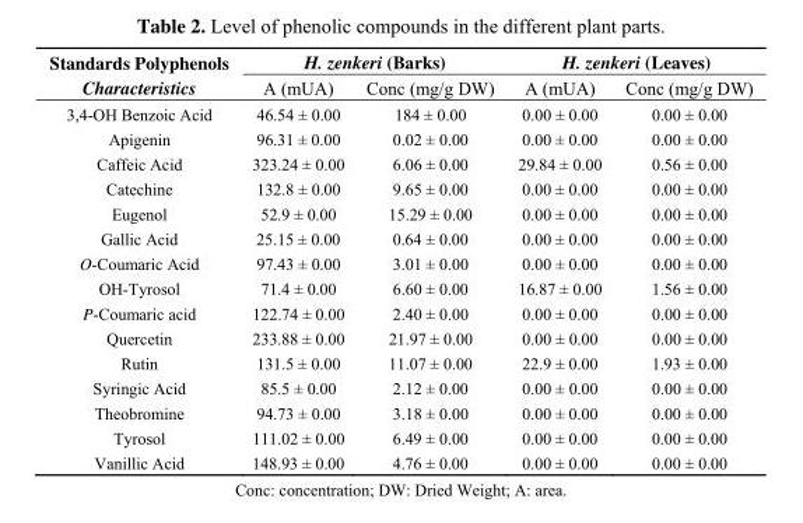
<table><thead><tr><td rowspan="2">Standards Polyphenols Characteristics</td><td colspan="2">H. zenkeri (Barks)</td><td colspan="2">H. zenkeri (Leaves)</td></tr><tr><td>A (mUA)</td><td>Conc (mg/g DW)</td><td>A (mUA)</td><td>Conc (mg/g DW)</td></tr></thead><tbody><tr><td>3,4-OH Benzoic Acid</td><td>46.54 ± 0.00</td><td>184 ± 0.00</td><td>0.00 ± 0.00</td><td>0.00 ± 0.00</td></tr><tr><td>Apigenin</td><td>96.31 ± 0.00</td><td>0.02 ± 0.00</td><td>0.00 ± 0.00</td><td>0.00 ± 0.00</td></tr><tr><td>Caffeic Acid</td><td>323.24 ± 0.00</td><td>6.06 ± 0.00</td><td>29.84 ± 0.00</td><td>0.56 ± 0.00</td></tr><tr><td>Catechine</td><td>132.8 ± 0.00</td><td>9.65 ± 0.00</td><td>0.00 ± 0.00</td><td>0.00 ± 0.00</td></tr><tr><td>Eugenol</td><td>52.9 ± 0.00</td><td>15.29 ± 0.00</td><td>0.00 ± 0.00</td><td>0.00 ± 0.00</td></tr><tr><td>Gallic Acid</td><td>25.15 ± 0.00</td><td>0.64 ± 0.00</td><td>0.00 ± 0.00</td><td>0.00 ± 0.00</td></tr><tr><td>O-Coumaric Acid</td><td>97.43 ± 0.00</td><td>3.01 ± 0.00</td><td>0.00 ± 0.00</td><td>0.00 ± 0.00</td></tr><tr><td>OH-Tyrosol</td><td>71.4 ± 0.00</td><td>6.60 ± 0.00</td><td>16.87 ± 0.00</td><td>1.56 ± 0.00</td></tr><tr><td>P-Coumaric acid</td><td>122.74 ± 0.00</td><td>2.40 ± 0.00</td><td>0.00 ± 0.00</td><td>0.00 ± 0.00</td></tr><tr><td>Quercetin</td><td>233.88 ± 0.00</td><td>21.97 ± 0.00</td><td>0.00 ± 0.00</td><td>0.00 ± 0.00</td></tr><tr><td>Rutin</td><td>131.5 ± 0.00</td><td>11.07 ± 0.00</td><td>22.9 ± 0.00</td><td>1.93 ± 0.00</td></tr><tr><td>Syringic Acid</td><td>85.5 ± 0.00</td><td>2.12 ± 0.00</td><td>0.00 ± 0.00</td><td>0.00 ± 0.00</td></tr><tr><td>Theobromine</td><td>94.73 ± 0.00</td><td>3.18 ± 0.00</td><td>0.00 ± 0.00</td><td>0.00 ± 0.00</td></tr><tr><td>Tyrosol</td><td>111.02 ± 0.00</td><td>6.49 ± 0.00</td><td>0.00 ± 0.00</td><td>0.00 ± 0.00</td></tr><tr><td>Vanillic Acid</td><td>148.93 ± 0.00</td><td>4.76 ± 0.00</td><td>0.00 ± 0.00</td><td>0.00 ± 0.00</td></tr></tbody></table>